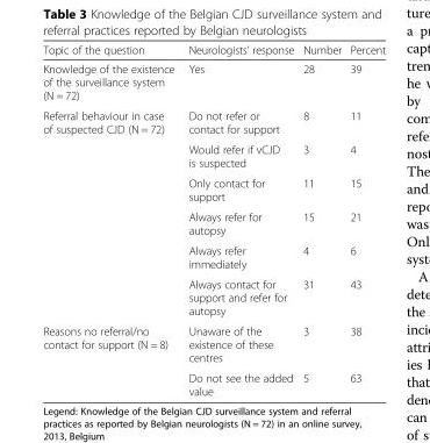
<table><thead><tr><td>Topic of the question</td><td>Neurologists’ response</td><td>Number</td><td>Percent</td></tr></thead><tbody><tr><td>Knowledge of the existence of the surveillance system (N = 72)</td><td>Yes</td><td>28</td><td>39</td></tr><tr><td rowspan="6">Referral behaviour in case of suspected CJD (N = 72)</td><td>Do not refer or contact for support</td><td>8</td><td>11</td></tr><tr><td>Would refer if vCJD is suspected</td><td>3</td><td>4</td></tr><tr><td>Only contact for support</td><td>11</td><td>15</td></tr><tr><td>Always refer for autopsy</td><td>15</td><td>21</td></tr><tr><td>Always refer immediately</td><td>4</td><td>6</td></tr><tr><td>Always contact for support and refer for autopsy</td><td>31</td><td>43</td></tr><tr><td rowspan="2">Reasons no referral/no contact for support (N = 8)</td><td>Unaware of the existence of these centres</td><td>3</td><td>38</td></tr><tr><td>Do not see the added value</td><td>5</td><td>63</td></tr></tbody></table>